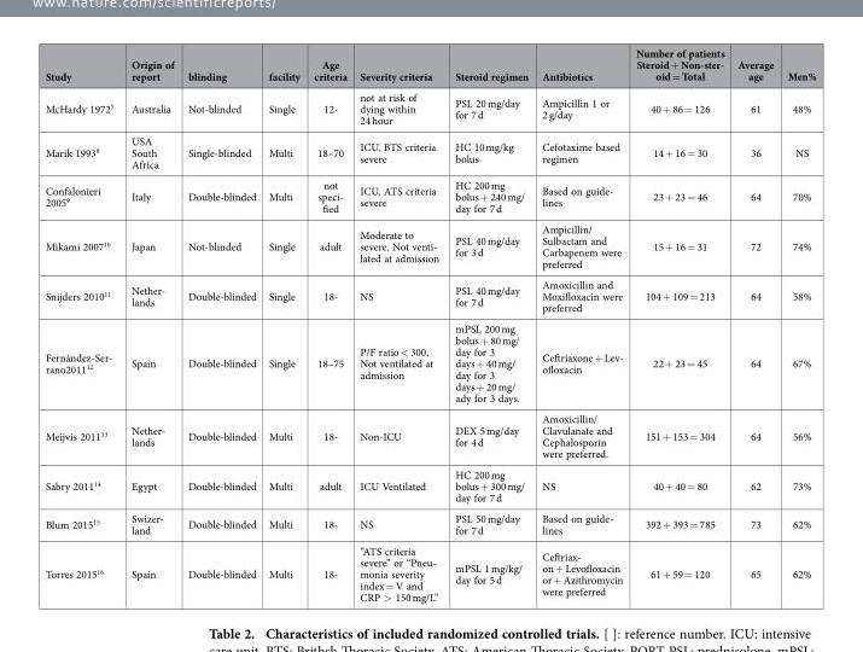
<table><thead><tr><td>Study</td><td>Origin of report</td><td>blinding</td><td>facility</td><td>Age criteria</td><td>Severity criteria</td><td>Steroid regimen</td><td>Antibiotics</td><td>Number of patients Steroid + Non-ster- oid = Total</td><td>Average age</td><td>Men%</td></tr></thead><tbody><tr><td>McHardy 1972<sup>7</sup></td><td>Australia</td><td>Not-blinded</td><td>Single</td><td>12-</td><td>not at risk of dying within 24 hour</td><td>PSL 20 mg/day for 7 d</td><td>Ampicillin 1 or 2 g/day</td><td>40 + 86 = 126</td><td>61</td><td>48%</td></tr><tr><td>Marik 1993<sup>8</sup></td><td>USA South Africa</td><td>Single-blinded</td><td>Multi</td><td>18–70</td><td>ICU, BTS criteria severe</td><td>HC 10 mg/kg bolus</td><td>Cefotaxime based regimen</td><td>14 + 16 = 30</td><td>36</td><td>NS</td></tr><tr><td>Confalonieri 2005<sup>9</sup></td><td>Italy</td><td>Double-blinded</td><td>Multi</td><td>not speci- fied</td><td>ICU, ATS criteria severe</td><td>HC 200 mg bolus + 240 mg/ day for 7 d</td><td>Based on guide- lines</td><td>23 + 23 = 46</td><td>64</td><td>70%</td></tr><tr><td>Mikami 2007<sup>10</sup></td><td>Japan</td><td>Not-blinded</td><td>Single</td><td>adult</td><td>Moderate to severe. Not venti- lated at admission</td><td>PSL 40 mg/day for 3 d</td><td>Ampicillin/ Sulbactam and Carbapenem were preferred</td><td>15 + 16 = 31</td><td>72</td><td>74%</td></tr><tr><td>Snijders 2010<sup>11</sup></td><td>Nether- lands</td><td>Double-blinded</td><td>Single</td><td>18-</td><td>NS</td><td>PSL 40 mg/day for 7 d</td><td>Amoxicillin and Moxifloxacin were preferred</td><td>104 + 109 = 213</td><td>64</td><td>58%</td></tr><tr><td>Fernández-Ser- rano201112</td><td>Spain</td><td>Double-blinded</td><td>Single</td><td>18–75</td><td>P/F ratio &lt; 300, Not ventilated at admission</td><td>mPSL 200 mg bolus + 80 mg/ day for 3 days + 40 mg/ day for 3 days + 20 mg/ ady for 3 days.</td><td>Ceftriaxone + Lev- ofloxacin</td><td>22 + 23 = 45</td><td>64</td><td>67%</td></tr><tr><td>Meijvis 2011<sup>13</sup></td><td>Nether- lands</td><td>Double-blinded</td><td>Multi</td><td>18-</td><td>Non-ICU</td><td>DEX 5 mg/day for 4 d</td><td>Amoxicillin/ Clavulanate and Cephalosporin were preferred.</td><td>151 + 153 = 304</td><td>64</td><td>56%</td></tr><tr><td>Sabry 2011<sup>14</sup></td><td>Egypt</td><td>Double-blinded</td><td>Multi</td><td>adult</td><td>ICU Ventilated</td><td>HC 200 mg bolus + 300 mg/ day for 7 d</td><td>NS</td><td>40 + 40 = 80</td><td>62</td><td>73%</td></tr><tr><td>Blum 2015<sup>15</sup></td><td>Swizer- land</td><td>Double-blinded</td><td>Multi</td><td>18-</td><td>NS</td><td>PSL 50 mg/day for 7 d</td><td>Based on guide- lines</td><td>392 + 393 = 785</td><td>73</td><td>62%</td></tr><tr><td>Torres 2015<sup>16</sup></td><td>Spain</td><td>Double-blinded</td><td>Multi</td><td>18-</td><td>“ATS criteria severe” or “Pneu- monia severity index = V and CRP &gt; 150 mg/L”</td><td>mPSL 1 mg/kg/ day for 5 d</td><td>Ceftriax- on + Levofloxacin or + Azithromycin were preferred</td><td>61 + 59 = 120</td><td>65</td><td>62%</td></tr></tbody></table>